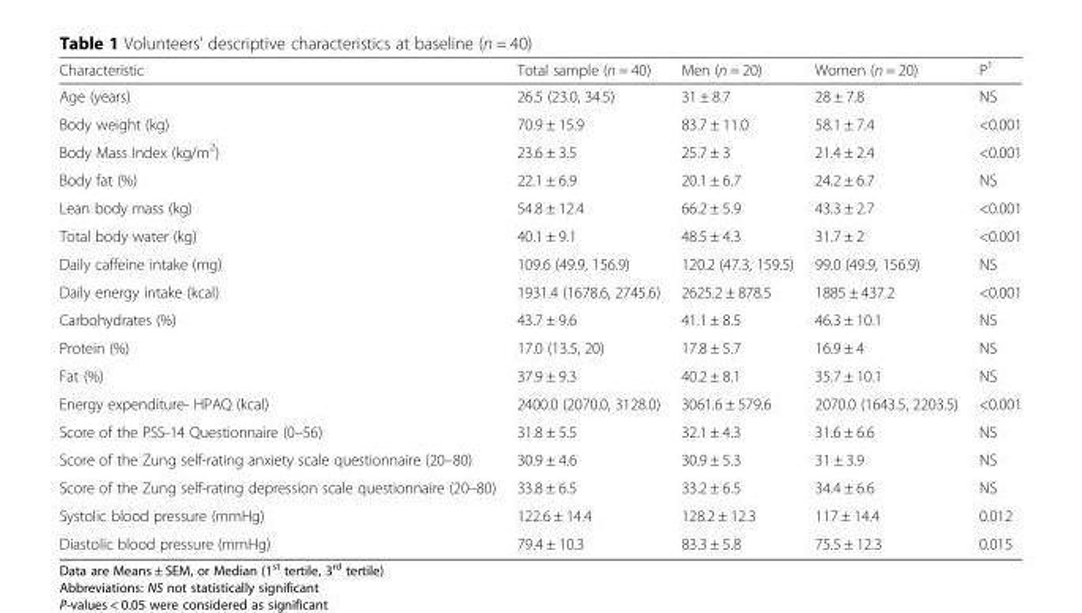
<table><thead><tr><td>Characteristic</td><td>Total sample (n = 40)</td><td>Men (n = 20)</td><td>Women (n = 20)</td><td>P<sup>1</sup></td></tr></thead><tbody><tr><td>Age (years)</td><td>26.5 (23.0, 34.5)</td><td>31 ± 8.7</td><td>28 ± 7.8</td><td>NS</td></tr><tr><td>Body weight (kg)</td><td>70.9 ± 15.9</td><td>83.7 ± 11.0</td><td>58.1 ± 7.4</td><td>&lt;0.001</td></tr><tr><td>Body Mass Index (kg/m<sup>2</sup>)</td><td>23.6 ± 3.5</td><td>25.7 ± 3</td><td>21.4 ± 2.4</td><td>&lt;0.001</td></tr><tr><td>Body fat (%)</td><td>22.1 ± 6.9</td><td>20.1 ± 6.7</td><td>24.2 ± 6.7</td><td>NS</td></tr><tr><td>Lean body mass (kg)</td><td>54.8 ± 12.4</td><td>66.2 ± 5.9</td><td>43.3 ± 2.7</td><td>&lt;0.001</td></tr><tr><td>Total body water (kg)</td><td>40.1 ± 9.1</td><td>48.5 ± 4.3</td><td>31.7 ± 2</td><td>&lt;0.001</td></tr><tr><td>Daily caffeine intake (mg)</td><td>109.6 (49.9, 156.9)</td><td>120.2 (47.3, 159.5)</td><td>99.0 (49.9, 156.9)</td><td>NS</td></tr><tr><td>Daily energy intake (kcal)</td><td>1931.4 (1678.6, 2745.6)</td><td>2625.2 ± 878.5</td><td>1885 ± 437.2</td><td>&lt;0.001</td></tr><tr><td>Carbohydrates (%)</td><td>43.7 ± 9.6</td><td>41.1 ± 8.5</td><td>46.3 ± 10.1</td><td>NS</td></tr><tr><td>Protein (%)</td><td>17.0 (13.5, 20)</td><td>17.8 ± 5.7</td><td>16.9 ± 4</td><td>NS</td></tr><tr><td>Fat (%)</td><td>37.9 ± 9.3</td><td>40.2 ± 8.1</td><td>35.7 ± 10.1</td><td>NS</td></tr><tr><td>Energy expenditure- HPAQ (kcal)</td><td>2400.0 (2070.0, 3128.0)</td><td>3061.6 ± 579.6</td><td>2070.0 (1643.5, 2203.5)</td><td>&lt;0.001</td></tr><tr><td>Score of the PSS-14 Questionnaire (0–56)</td><td>31.8 ± 5.5</td><td>32.1 ± 4.3</td><td>31.6 ± 6.6</td><td>NS</td></tr><tr><td>Score of the Zung self-rating anxiety scale questionnaire (20–80)</td><td>30.9 ± 4.6</td><td>30.9 ± 5.3</td><td>31 ± 3.9</td><td>NS</td></tr><tr><td>Score of the Zung self-rating depression scale questionnaire (20–80)</td><td>33.8 ± 6.5</td><td>33.2 ± 6.5</td><td>34.4 ± 6.6</td><td>NS</td></tr><tr><td>Systolic blood pressure (mmHg)</td><td>122.6 ± 14.4</td><td>128.2 ± 12.3</td><td>117 ± 14.4</td><td>0.012</td></tr><tr><td>Diastolic blood pressure (mmHg)</td><td>79.4 ± 10.3</td><td>83.3 ± 5.8</td><td>75.5 ± 12.3</td><td>0.015</td></tr></tbody></table>